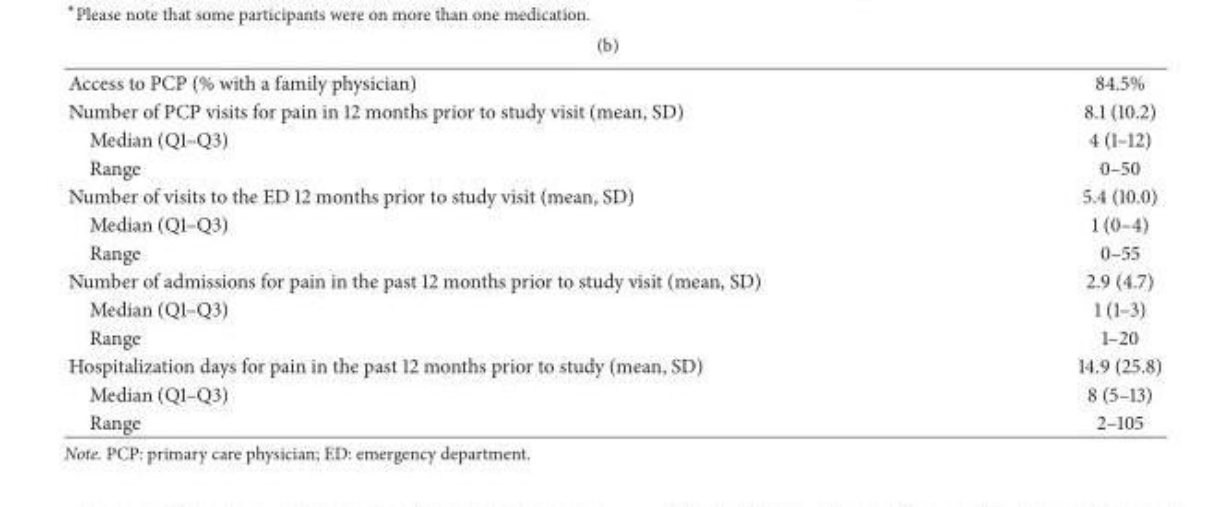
<table><tbody><tr><td>Access to PCP (% with a family physician)</td><td>84.5%</td></tr><tr><td>Number of PCP visits for pain in 12 months prior to study visit (mean, SD)</td><td>8.1 (10.2)</td></tr><tr><td>Median (Q1–Q3)</td><td>4 (1–12)</td></tr><tr><td>Range</td><td>0–50</td></tr><tr><td>Number of visits to the ED 12 months prior to study visit (mean, SD)</td><td>5.4 (10.0)</td></tr><tr><td>Median (Q1–Q3)</td><td>1 (0–4)</td></tr><tr><td>Range</td><td>0–55</td></tr><tr><td>Number of admissions for pain in the past 12 months prior to study visit (mean, SD)</td><td>2.9 (4.7)</td></tr><tr><td>Median (Q1–Q3)</td><td>1 (1–3)</td></tr><tr><td>Range</td><td>1–20</td></tr><tr><td>Hospitalization days for pain in the past 12 months prior to study (mean, SD)</td><td>14.9 (25.8)</td></tr><tr><td>Median (Q1–Q3)</td><td>8 (5–13)</td></tr><tr><td>Range</td><td>2–105</td></tr></tbody></table>